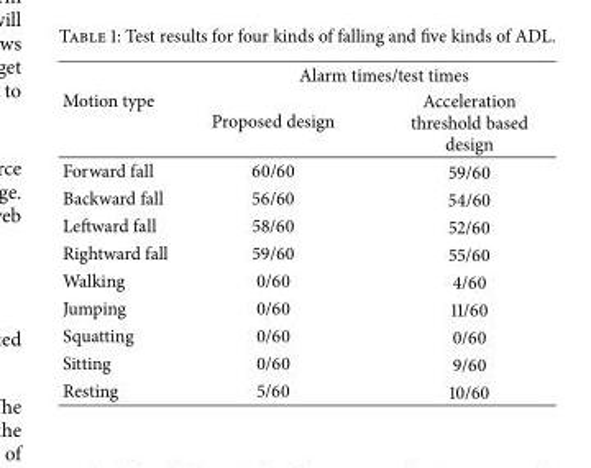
<table><thead><tr><td rowspan="2">Motion type</td><td colspan="2">Alarm times/test times</td></tr><tr><td>Proposed design</td><td>Acceleration threshold based design</td></tr></thead><tbody><tr><td>Forward fall</td><td>60/60</td><td>59/60</td></tr><tr><td>Backward fall</td><td>56/60</td><td>54/60</td></tr><tr><td>Leftward fall</td><td>58/60</td><td>52/60</td></tr><tr><td>Rightward fall</td><td>59/60</td><td>55/60</td></tr><tr><td>Walking</td><td>0/60</td><td>4/60</td></tr><tr><td>Jumping</td><td>0/60</td><td>11/60</td></tr><tr><td>Squatting</td><td>0/60</td><td>0/60</td></tr><tr><td>Sitting</td><td>0/60</td><td>9/60</td></tr><tr><td>Resting</td><td>5/60</td><td>10/60</td></tr></tbody></table>